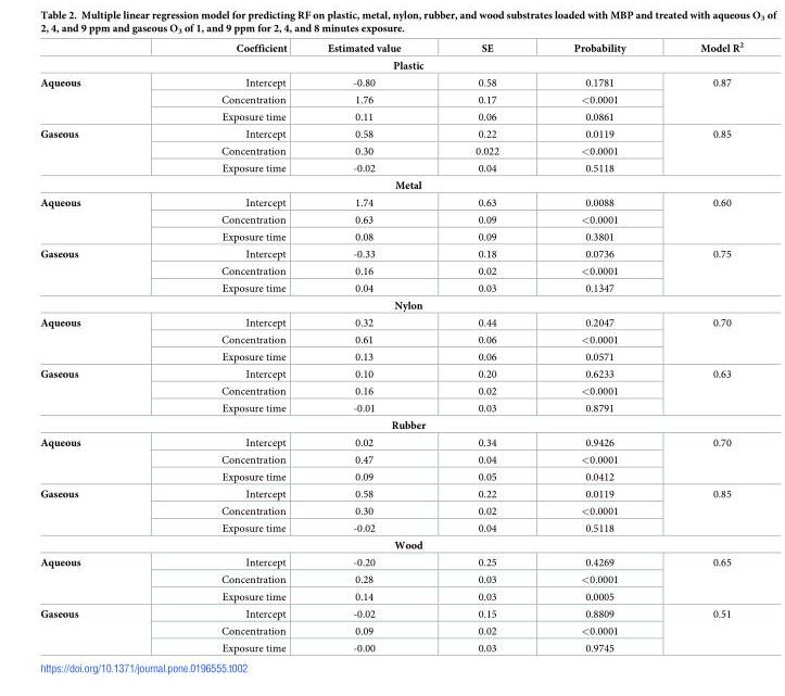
<table><thead><tr><td></td><td>Coefficient</td><td>Estimated value</td><td>SE</td><td>Probability</td><td>Model R<sup>2</sup></td></tr></thead><tbody><tr><td colspan="6">Plastic</td></tr><tr><td rowspan="3">Aqueous</td><td>Intercept</td><td>-0.80</td><td>0.58</td><td>0.1781</td><td rowspan="3">0.87</td></tr><tr><td>Concentration</td><td>1.76</td><td>0.17</td><td>&lt;0.0001</td></tr><tr><td>Exposure time</td><td>0.11</td><td>0.06</td><td>0.0861</td></tr><tr><td rowspan="3">Gaseous</td><td>Intercept</td><td>0.58</td><td>0.22</td><td>0.0119</td><td rowspan="3">0.85</td></tr><tr><td>Concentration</td><td>0.30</td><td>0.022</td><td>&lt;0.0001</td></tr><tr><td>Exposure time</td><td>-0.02</td><td>0.04</td><td>0.5118</td></tr><tr><td colspan="6">Metal</td></tr><tr><td rowspan="3">Aqueous</td><td>Intercept</td><td>1.74</td><td>0.63</td><td>0.0088</td><td rowspan="3">0.60</td></tr><tr><td>Concentration</td><td>0.63</td><td>0.09</td><td>&lt;0.0001</td></tr><tr><td>Exposure time</td><td>0.08</td><td>0.09</td><td>0.3801</td></tr><tr><td rowspan="3">Gaseous</td><td>Intercept</td><td>-0.33</td><td>0.18</td><td>0.0736</td><td rowspan="3">0.75</td></tr><tr><td>Concentration</td><td>0.16</td><td>0.02</td><td>&lt;0.0001</td></tr><tr><td>Exposure time</td><td>0.04</td><td>0.03</td><td>0.1347</td></tr><tr><td colspan="6">Nylon</td></tr><tr><td rowspan="3">Aqueous</td><td>Intercept</td><td>0.32</td><td>0.44</td><td>0.2047</td><td rowspan="3">0.70</td></tr><tr><td>Concentration</td><td>0.61</td><td>0.06</td><td>&lt;0.0001</td></tr><tr><td>Exposure time</td><td>0.13</td><td>0.06</td><td>0.0571</td></tr><tr><td rowspan="3">Gaseous</td><td>Intercept</td><td>0.10</td><td>0.20</td><td>0.6233</td><td rowspan="3">0.63</td></tr><tr><td>Concentration</td><td>0.16</td><td>0.02</td><td>&lt;0.0001</td></tr><tr><td>Exposure time</td><td>-0.01</td><td>0.03</td><td>0.8791</td></tr><tr><td colspan="6">Rubber</td></tr><tr><td rowspan="3">Aqueous</td><td>Intercept</td><td>0.02</td><td>0.34</td><td>0.9426</td><td rowspan="3">0.70</td></tr><tr><td>Concentration</td><td>0.47</td><td>0.04</td><td>&lt;0.0001</td></tr><tr><td>Exposure time</td><td>0.09</td><td>0.05</td><td>0.0412</td></tr><tr><td rowspan="3">Gaseous</td><td>Intercept</td><td>0.58</td><td>0.22</td><td>0.0119</td><td rowspan="3">0.85</td></tr><tr><td>Concentration</td><td>0.30</td><td>0.02</td><td>&lt;0.0001</td></tr><tr><td>Exposure time</td><td>-0.02</td><td>0.04</td><td>0.5118</td></tr><tr><td colspan="6">Wood</td></tr><tr><td rowspan="3">Aqueous</td><td>Intercept</td><td>-0.20</td><td>0.25</td><td>0.4269</td><td rowspan="3">0.65</td></tr><tr><td>Concentration</td><td>0.28</td><td>0.03</td><td>&lt;0.0001</td></tr><tr><td>Exposure time</td><td>0.14</td><td>0.03</td><td>0.0005</td></tr><tr><td rowspan="3">Gaseous</td><td>Intercept</td><td>-0.02</td><td>0.15</td><td>0.8809</td><td rowspan="3">0.51</td></tr><tr><td>Concentration</td><td>0.09</td><td>0.02</td><td>&lt;0.0001</td></tr><tr><td>Exposure time</td><td>-0.00</td><td>0.03</td><td>0.9745</td></tr></tbody></table>